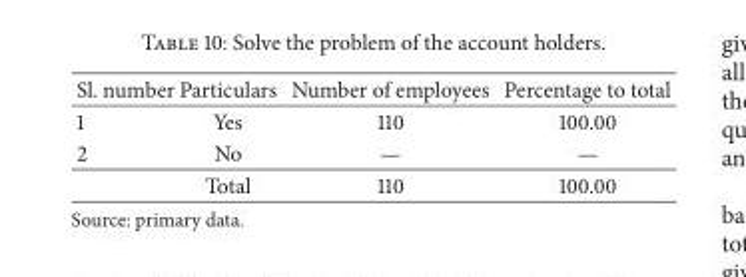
<table><thead><tr><td>Sl. number</td><td>Particulars</td><td>Number of employees</td><td>Percentage to total</td></tr></thead><tbody><tr><td>1</td><td>Yes</td><td>110</td><td>100.00</td></tr><tr><td rowspan="2">2</td><td>No</td><td>—</td><td>—</td></tr><tr><td>Total</td><td>110</td><td>100.00</td></tr></tbody></table>